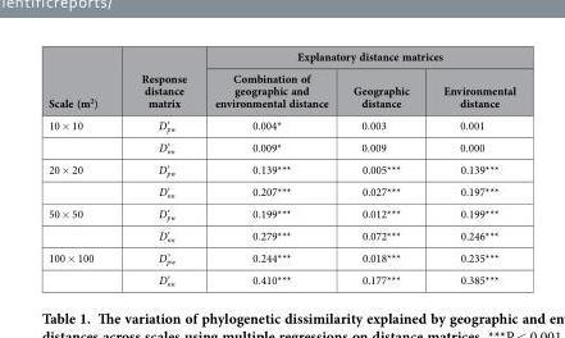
<table><thead><tr><td rowspan="2">Scale (m<sup>2</sup>)</td><td rowspan="2">Response distance matrix</td><td colspan="3">Explanatory distance matrices</td></tr><tr><td>Combination of geographic and environmental distance</td><td>Geographic distance</td><td>Environmental distance</td></tr></thead><tbody><tr><td rowspan="2">10 × 10</td><td>D<sub>pw</sub>’</td><td>0.004*</td><td>0.003</td><td>0.001</td></tr><tr><td>D<sub>nn</sub>’</td><td>0.009*</td><td>0.009</td><td>0.000</td></tr><tr><td rowspan="2">20 × 20</td><td>D<sub>pw</sub>’</td><td>0.139***</td><td>0.005***</td><td>0.139***</td></tr><tr><td>D<sub>nn</sub>’</td><td>0.207***</td><td>0.027***</td><td>0.197***</td></tr><tr><td rowspan="2">50 × 50</td><td>D<sub>pw</sub>’</td><td>0.199***</td><td>0.012***</td><td>0.199***</td></tr><tr><td>D<sub>nn</sub>’</td><td>0.279***</td><td>0.072***</td><td>0.246***</td></tr><tr><td rowspan="2">100 × 100</td><td>D<sub>pw</sub>’</td><td>0.244***</td><td>0.018***</td><td>0.235***</td></tr><tr><td>D<sub>nn</sub>’</td><td>0.410***</td><td>0.177***</td><td>0.385***</td></tr></tbody></table>